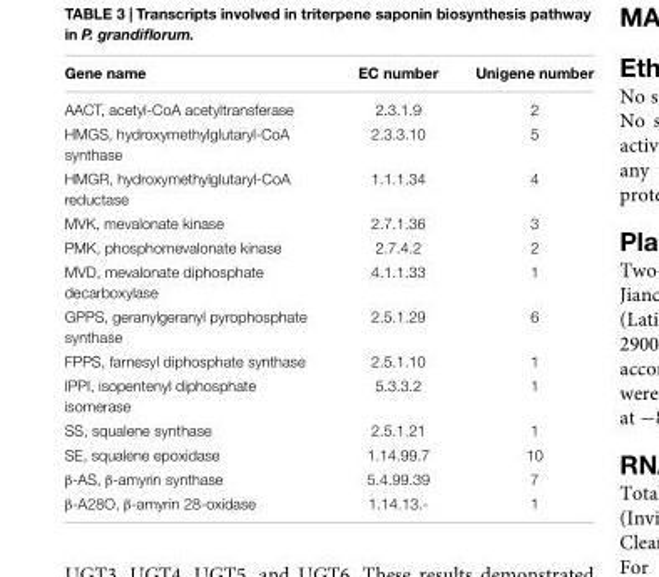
<table><thead><tr><td>Gene name</td><td>EC number</td><td>Unigene number</td></tr></thead><tbody><tr><td>AACT, acetyl-CoA acetyltransferase</td><td>2.3.1.9</td><td>2</td></tr><tr><td>HMGS, hydroxymethylglutaryl-CoA synthase</td><td>2.3.3.10</td><td>5</td></tr><tr><td>HMGR, hydroxymethylglutaryl-CoA reductase</td><td>1.1.1.34</td><td>4</td></tr><tr><td>MVK, mevalonate kinase</td><td>2.7.1.36</td><td>3</td></tr><tr><td>PMK, phosphomevalonate kinase</td><td>2.7.4.2</td><td>2</td></tr><tr><td>MVD, mevalonate diphosphate decarboxylase</td><td>4.1.1.33</td><td>1</td></tr><tr><td>GPPS, geranylgeranyl pyrophosphate synthase</td><td>2.5.1.29</td><td>6</td></tr><tr><td>FPPS, farnesyl diphosphate synthase</td><td>2.5.1.10</td><td>1</td></tr><tr><td>IPPI, isopentenyl diphosphate isomerase</td><td>5.3.3.2</td><td>1</td></tr><tr><td>SS, squalene synthase</td><td>2.5.1.21</td><td>1</td></tr><tr><td>SE, squalene epoxidase</td><td>1.14.99.7</td><td>10</td></tr><tr><td>β-AS, β-amyrin synthase</td><td>5.4.99.39</td><td>7</td></tr><tr><td>β-A28O, β-amyrin 28-oxidase</td><td>1.14.13.-</td><td>1</td></tr></tbody></table>